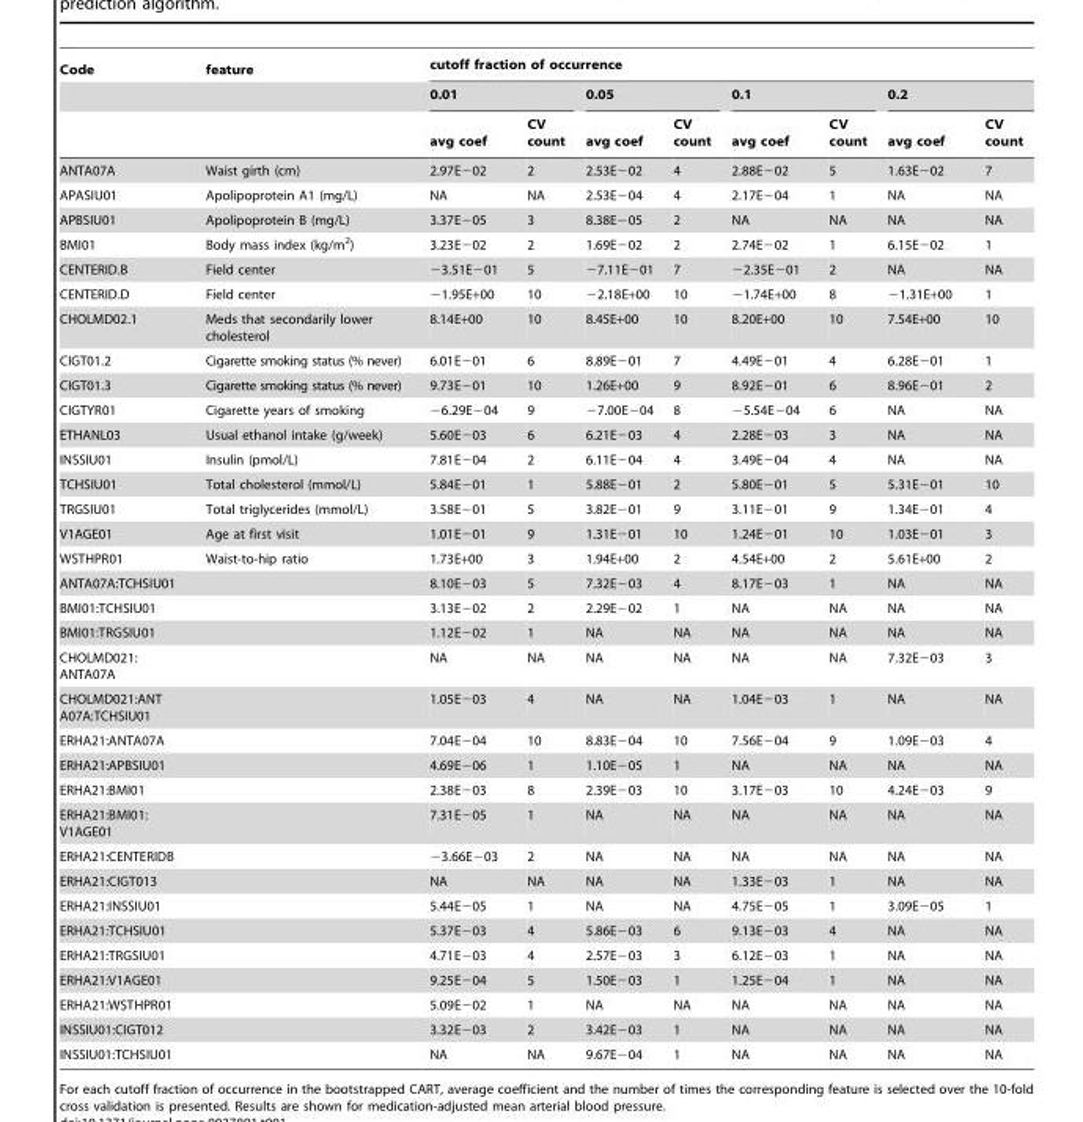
<table><thead><tr><td rowspan="3">Code</td><td rowspan="3">feature</td><td colspan="8">cutoff fraction of occurrence</td></tr><tr><td colspan="2">0.01</td><td colspan="2">0.05</td><td colspan="2">0.1</td><td colspan="2">0.2</td></tr><tr><td>avg coef</td><td>CV count</td><td>avg coef</td><td>CV count</td><td>avg coef</td><td>CV count</td><td>avg coef</td><td>CV count</td></tr></thead><tbody><tr><td>ANTA07A</td><td>Waist girth (cm)</td><td>2.97E−02</td><td>2</td><td>2.53E−02</td><td>4</td><td>2.88E−02</td><td>5</td><td>1.63E−02</td><td>7</td></tr><tr><td>APASIU01</td><td>Apolipoprotein A1 (mg/L)</td><td>NA</td><td>NA</td><td>2.53E−04</td><td>4</td><td>2.17E−04</td><td>1</td><td>NA</td><td>NA</td></tr><tr><td>APBSIU01</td><td>Apolipoprotein B (mg/L)</td><td>3.37E−05</td><td>3</td><td>8.38E−05</td><td>2</td><td>NA</td><td>NA</td><td>NA</td><td>NA</td></tr><tr><td>BMI01</td><td>Body mass index (kg/m<sup>2</sup>)</td><td>3.23E−02</td><td>2</td><td>1.69E−02</td><td>2</td><td>2.74E−02</td><td>1</td><td>6.15E−02</td><td>1</td></tr><tr><td>CENTERID.B</td><td>Field center</td><td>−3.51E−01</td><td>5</td><td>−7.11E−01</td><td>7</td><td>−2.35E−01</td><td>2</td><td>NA</td><td>NA</td></tr><tr><td>CENTERID.D</td><td>Field center</td><td>−1.95E+00</td><td>10</td><td>−2.18E+00</td><td>10</td><td>−1.74E+00</td><td>8</td><td>−1.31E+00</td><td>1</td></tr><tr><td>CHOLMD02.1</td><td>Meds that secondarily lower cholesterol</td><td>8.14E+00</td><td>10</td><td>8.45E+00</td><td>10</td><td>8.20E+00</td><td>10</td><td>7.54E+00</td><td>10</td></tr><tr><td>CIGT01.2</td><td>Cigarette smoking status (% never)</td><td>6.01E−01</td><td>6</td><td>8.89E−01</td><td>7</td><td>4.49E−01</td><td>4</td><td>6.28E−01</td><td>1</td></tr><tr><td>CIGT01.3</td><td>Cigarette smoking status (% never)</td><td>9.73E−01</td><td>10</td><td>1.26E+00</td><td>9</td><td>8.92E−01</td><td>6</td><td>8.96E−01</td><td>2</td></tr><tr><td>CIGTYR01</td><td>Cigarette years of smoking</td><td>−6.29E−04</td><td>9</td><td>−7.00E−04</td><td>8</td><td>−5.54E−04</td><td>6</td><td>NA</td><td>NA</td></tr><tr><td>ETHANL03</td><td>Usual ethanol intake (g/week)</td><td>5.60E−03</td><td>6</td><td>6.21E−03</td><td>4</td><td>2.28E−03</td><td>3</td><td>NA</td><td>NA</td></tr><tr><td>INSSIU01</td><td>Insulin (pmol/L)</td><td>7.81E−04</td><td>2</td><td>6.11E−04</td><td>4</td><td>3.49E−04</td><td>4</td><td>NA</td><td>NA</td></tr><tr><td>TCHSIU01</td><td>Total cholesterol (mmol/L)</td><td>5.84E−01</td><td>1</td><td>5.88E−01</td><td>2</td><td>5.80E−01</td><td>5</td><td>5.31E−01</td><td>10</td></tr><tr><td>TRGSIU01</td><td>Total triglycerides (mmol/L)</td><td>3.58E−01</td><td>5</td><td>3.82E−01</td><td>9</td><td>3.11E−01</td><td>9</td><td>1.34E−01</td><td>4</td></tr><tr><td>V1AGE01</td><td>Age at first visit</td><td>1.01E−01</td><td>9</td><td>1.31E−01</td><td>10</td><td>1.24E−01</td><td>10</td><td>1.03E−01</td><td>3</td></tr><tr><td>WSTHPR01</td><td>Waist-to-hip ratio</td><td>1.73E+00</td><td>3</td><td>1.94E+00</td><td>2</td><td>4.54E+00</td><td>2</td><td>5.61E+00</td><td>2</td></tr><tr><td colspan="2">ANTA07A:TCHSIU01</td><td>8.10E−03</td><td>5</td><td>7.32E−03</td><td>4</td><td>8.17E−03</td><td>1</td><td>NA</td><td>NA</td></tr><tr><td colspan="2">BMI01:TCHSIU01</td><td>3.13E−02</td><td>2</td><td>2.29E−02</td><td>1</td><td>NA</td><td>NA</td><td>NA</td><td>NA</td></tr><tr><td colspan="2">BMI01:TRGSIU01</td><td>1.12E−02</td><td>1</td><td>NA</td><td>NA</td><td>NA</td><td>NA</td><td>NA</td><td>NA</td></tr><tr><td colspan="2">CHOLMD021: ANTA07A</td><td>NA</td><td>NA</td><td>NA</td><td>NA</td><td>NA</td><td>NA</td><td>7.32E−03</td><td>3</td></tr><tr><td colspan="2">CHOLMD021:ANT A07A:TCHSIU01</td><td>1.05E−03</td><td>4</td><td>NA</td><td>NA</td><td>1.04E−03</td><td>1</td><td>NA</td><td>NA</td></tr><tr><td colspan="2">ERHA21:ANTA07A</td><td>7.04E−04</td><td>10</td><td>8.83E−04</td><td>10</td><td>7.56E−04</td><td>9</td><td>1.09E−03</td><td>4</td></tr><tr><td colspan="2">ERHA21:APBSIU01</td><td>4.69E−06</td><td>1</td><td>1.10E−05</td><td>1</td><td>NA</td><td>NA</td><td>NA</td><td>NA</td></tr><tr><td colspan="2">ERHA21:BMI01</td><td>2.38E−03</td><td>8</td><td>2.39E−03</td><td>10</td><td>3.17E−03</td><td>10</td><td>4.24E−03</td><td>9</td></tr><tr><td colspan="2">ERHA21:BMI01: V1AGE01</td><td>7.31E−05</td><td>1</td><td>NA</td><td>NA</td><td>NA</td><td>NA</td><td>NA</td><td>NA</td></tr><tr><td colspan="2">ERHA21:CENTERIDB</td><td>−3.66E−03</td><td>2</td><td>NA</td><td>NA</td><td>NA</td><td>NA</td><td>NA</td><td>NA</td></tr><tr><td colspan="2">ERHA21:CIGT013</td><td>NA</td><td>NA</td><td>NA</td><td>NA</td><td>1.33E−03</td><td>1</td><td>NA</td><td>NA</td></tr><tr><td colspan="2">ERHA21:INSSIU01</td><td>5.44E−05</td><td>1</td><td>NA</td><td>NA</td><td>4.75E−05</td><td>1</td><td>3.09E−05</td><td>1</td></tr><tr><td colspan="2">ERHA21:TCHSIU01</td><td>5.37E−03</td><td>4</td><td>5.86E−03</td><td>6</td><td>9.13E−03</td><td>4</td><td>NA</td><td>NA</td></tr><tr><td colspan="2">ERHA21:TRGSIU01</td><td>4.71E−03</td><td>4</td><td>2.57E−03</td><td>3</td><td>6.12E−03</td><td>1</td><td>NA</td><td>NA</td></tr><tr><td colspan="2">ERHA21:V1AGE01</td><td>9.25E−04</td><td>5</td><td>1.50E−03</td><td>1</td><td>1.25E−04</td><td>1</td><td>NA</td><td>NA</td></tr><tr><td colspan="2">ERHA21:WSTHPR01</td><td>5.09E−02</td><td>1</td><td>NA</td><td>NA</td><td>NA</td><td>NA</td><td>NA</td><td>NA</td></tr><tr><td colspan="2">INSSIU01:CIGT012</td><td>3.32E−03</td><td>2</td><td>3.42E−03</td><td>1</td><td>NA</td><td>NA</td><td>NA</td><td>NA</td></tr><tr><td colspan="2">INSSIU01:TCHSIU01</td><td>NA</td><td>NA</td><td>9.67E−04</td><td>1</td><td>NA</td><td>NA</td><td>NA</td><td>NA</td></tr></tbody></table>